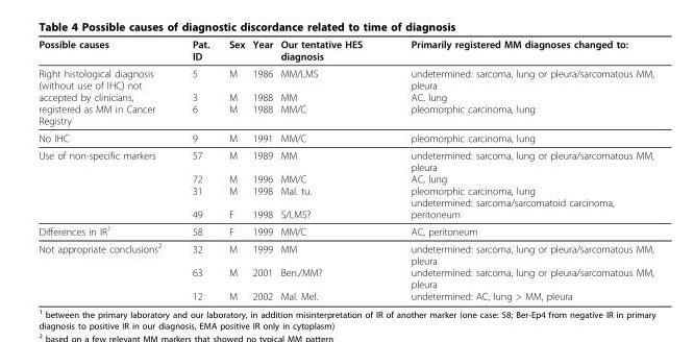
<table><thead><tr><td>Possible causes</td><td>Pat. ID</td><td>Sex</td><td>Year</td><td>Our tentative HES diagnosis</td><td>Primarily registered MM diagnoses changed to:</td></tr></thead><tbody><tr><td>Right histological diagnosis (without use of IHC) not accepted by clinicians, registered as MM in Cancer Registry</td><td>5 3 6</td><td>M M M</td><td>1986 1988 1988</td><td>MM/LMS MM MM/C</td><td>undetermined: sarcoma, lung or pleura/sarcomatous MM, pleura AC, lung pleomorphic carcinoma, lung</td></tr><tr><td>No IHC</td><td>9</td><td>M</td><td>1991</td><td>MM/C</td><td>pleomorphic carcinoma, lung</td></tr><tr><td>Use of non-specific markers</td><td>57 72 31 49</td><td>M M M F</td><td>1989 1996 1998 1998</td><td>MM MM/C Mal. tu. S/LMS?</td><td>undetermined: sarcoma, lung or pleura/sarcomatous MM, pleura AC, lung pleomorphic carcinoma, lung undetermined: sarcoma/sarcomatoid carcinoma, peritoneum</td></tr><tr><td>Differences in IR<sup>1</sup></td><td>58</td><td>F</td><td>1999</td><td>MM/C</td><td>AC, peritoneum</td></tr><tr><td>Not appropriate conclusions<sup>2</sup></td><td>32 63 12</td><td>M M M</td><td>1999 2001 2002</td><td>MM Ben./MM? Mal. Mel.</td><td>undetermined: sarcoma, lung or pleura/sarcomatous MM, pleura undetermined: sarcoma, lung or pleura/sarcomatous MM, pleura undetermined: AC, lung &gt; MM, pleura</td></tr></tbody></table>